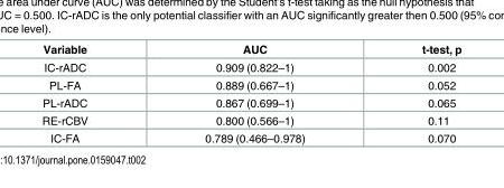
<table><thead><tr><td>Variable</td><td>AUC</td><td>t-test, p</td></tr></thead><tbody><tr><td>IC-rADC</td><td>0.909 (0.822–1)</td><td>0.002</td></tr><tr><td>PL-FA</td><td>0.889 (0.667–1)</td><td>0.052</td></tr><tr><td>PL-rADC</td><td>0.867 (0.699–1)</td><td>0.065</td></tr><tr><td>RE-rCBV</td><td>0.800 (0.566–1)</td><td>0.11</td></tr><tr><td>IC-FA</td><td>0.789 (0.466–0.978)</td><td>0.070</td></tr></tbody></table>